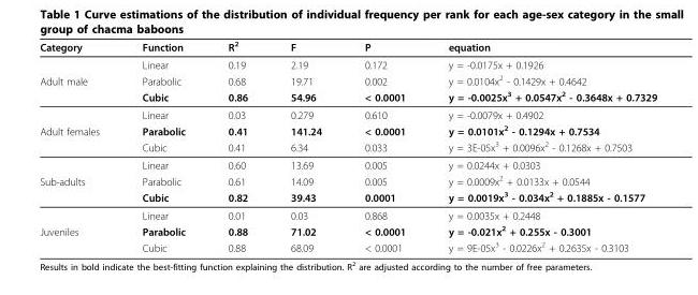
<table><thead><tr><td>Category</td><td>Function</td><td>R<sup>2</sup></td><td>F</td><td>P</td><td>equation</td></tr></thead><tbody><tr><td></td><td>Linear</td><td>0.19</td><td>2.19</td><td>0.172</td><td>y = -0.0175x + 0.1926</td></tr><tr><td rowspan="3">Adult male</td><td>Parabolic</td><td>0.68</td><td>19.71</td><td>0.002</td><td>y = 0.0104x<sup>2</sup> - 0.1429x + 0.4642</td></tr><tr><td>Cubic</td><td>0.86</td><td>54.96</td><td>&lt; 0.0001</td><td>y = -0.0025x<sup>3</sup> + 0.0547x<sup>2</sup> - 0.3648x + 0.7329</td></tr><tr><td>Linear</td><td>0.03</td><td>0.279</td><td>0.610</td><td>y = -0.0079x + 0.4902</td></tr><tr><td rowspan="3">Adult females</td><td>Parabolic</td><td>0.41</td><td>141.24</td><td>&lt; 0.0001</td><td>y = 0.0101x<sup>2</sup> - 0.1294x + 0.7534</td></tr><tr><td>Cubic</td><td>0.41</td><td>6.34</td><td>0.033</td><td>y = 3E-05x<sup>3</sup> + 0.0096x<sup>2</sup> - 0.1268x + 0.7503</td></tr><tr><td>Linear</td><td>0.60</td><td>13.69</td><td>0.005</td><td>y = 0.0244x + 0.0303</td></tr><tr><td rowspan="3">Sub-adults</td><td>Parabolic</td><td>0.61</td><td>14.09</td><td>0.005</td><td>y = 0.0009x<sup>2</sup> + 0.0133x + 0.0544</td></tr><tr><td>Cubic</td><td>0.82</td><td>39.43</td><td>0.0001</td><td>y = 0.0019x<sup>3</sup> - 0.034x<sup>2</sup> + 0.1885x - 0.1577</td></tr><tr><td>Linear</td><td>0.01</td><td>0.03</td><td>0.868</td><td>y = 0.0035x + 0.2448</td></tr><tr><td rowspan="2">Juveniles</td><td>Parabolic</td><td>0.88</td><td>71.02</td><td>&lt; 0.0001</td><td>y = -0.021x<sup>2</sup> + 0.255x - 0.3001</td></tr><tr><td>Cubic</td><td>0.88</td><td>68.09</td><td>&lt; 0.0001</td><td>y = 9E-05x<sup>3</sup> - 0.0226x<sup>2</sup> + 0.2635x - 0.3103</td></tr></tbody></table>